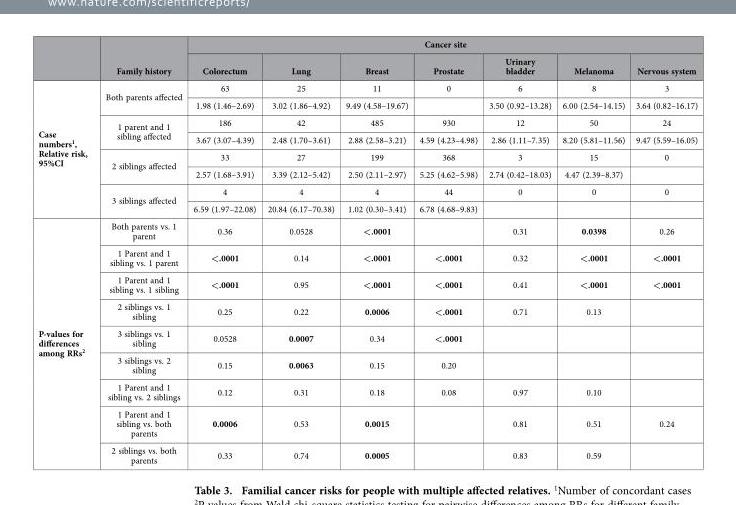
<table><thead><tr><td rowspan="2"></td><td rowspan="2">Family history</td><td colspan="7">Cancer site</td></tr><tr><td>Colorectum</td><td>Lung</td><td>Breast</td><td>Prostate</td><td>Urinary bladder</td><td>Melanoma</td><td>Nervous system</td></tr></thead><tbody><tr><td rowspan="8">Case numbers<sup>1</sup>, Relative risk, 95%CI</td><td rowspan="2">Both parents affected</td><td>63</td><td>25</td><td>11</td><td>0</td><td>6</td><td>8</td><td>3</td></tr><tr><td>1.98 (1.46–2.69)</td><td>3.02 (1.86–4.92)</td><td>9.49 (4.58–19.67)</td><td></td><td>3.50 (0.92–13.28)</td><td>6.00 (2.54–14.15)</td><td>3.64 (0.82–16.17)</td></tr><tr><td rowspan="2">1 parent and 1 sibling affected</td><td>186</td><td>42</td><td>485</td><td>930</td><td>12</td><td>50</td><td>24</td></tr><tr><td>3.67 (3.07–4.39)</td><td>2.48 (1.70–3.61)</td><td>2.88 (2.58–3.21)</td><td>4.59 (4.23–4.98)</td><td>2.86 (1.11–7.35)</td><td>8.20 (5.81–11.56)</td><td>9.47 (5.59–16.05)</td></tr><tr><td rowspan="2">2 siblings affected</td><td>33</td><td>27</td><td>199</td><td>368</td><td>3</td><td>15</td><td>0</td></tr><tr><td>2.57 (1.68–3.91)</td><td>3.39 (2.12–5.42)</td><td>2.50 (2.11–2.97)</td><td>5.25 (4.62–5.98)</td><td>2.74 (0.42–18.03)</td><td>4.47 (2.39–8.37)</td><td></td></tr><tr><td rowspan="2">3 siblings affected</td><td>4</td><td>4</td><td>4</td><td>44</td><td>0</td><td>0</td><td>0</td></tr><tr><td>6.59 (1.97–22.08)</td><td>20.84 (6.17–70.38)</td><td>1.02 (0.30–3.41)</td><td>6.78 (4.68–9.83)</td><td></td><td></td><td></td></tr><tr><td rowspan="9">P-values for differences among RRs<sup>2</sup></td><td>Both parents vs. 1 parent</td><td>0.36</td><td>0.0528</td><td>&lt;.0001</td><td></td><td>0.31</td><td>0.0398</td><td>0.26</td></tr><tr><td>1 Parent and 1 sibling vs. 1 parent</td><td>&lt;.0001</td><td>0.14</td><td>&lt;.0001</td><td>&lt;.0001</td><td>0.32</td><td>&lt;.0001</td><td>&lt;.0001</td></tr><tr><td>1 Parent and 1 sibling vs. 1 sibling</td><td>&lt;.0001</td><td>0.95</td><td>&lt;.0001</td><td>&lt;.0001</td><td>0.41</td><td>&lt;.0001</td><td>&lt;.0001</td></tr><tr><td>2 siblings vs. 1 sibling</td><td>0.25</td><td>0.22</td><td>0.0006</td><td>&lt;.0001</td><td>0.71</td><td>0.13</td><td></td></tr><tr><td>3 siblings vs. 1 sibling</td><td>0.0528</td><td>0.0007</td><td>0.34</td><td>&lt;.0001</td><td></td><td></td><td></td></tr><tr><td>3 siblings vs. 2 sibling</td><td>0.15</td><td>0.0063</td><td>0.15</td><td>0.20</td><td></td><td></td><td></td></tr><tr><td>1 Parent and 1 sibling vs. 2 siblings</td><td>0.12</td><td>0.31</td><td>0.18</td><td>0.08</td><td>0.97</td><td>0.10</td><td></td></tr><tr><td>1 Parent and 1 sibling vs. both parents</td><td>0.0006</td><td>0.53</td><td>0.0015</td><td></td><td>0.81</td><td>0.51</td><td>0.24</td></tr><tr><td>2 siblings vs. both parents</td><td>0.33</td><td>0.74</td><td>0.0005</td><td></td><td>0.83</td><td>0.59</td><td></td></tr></tbody></table>